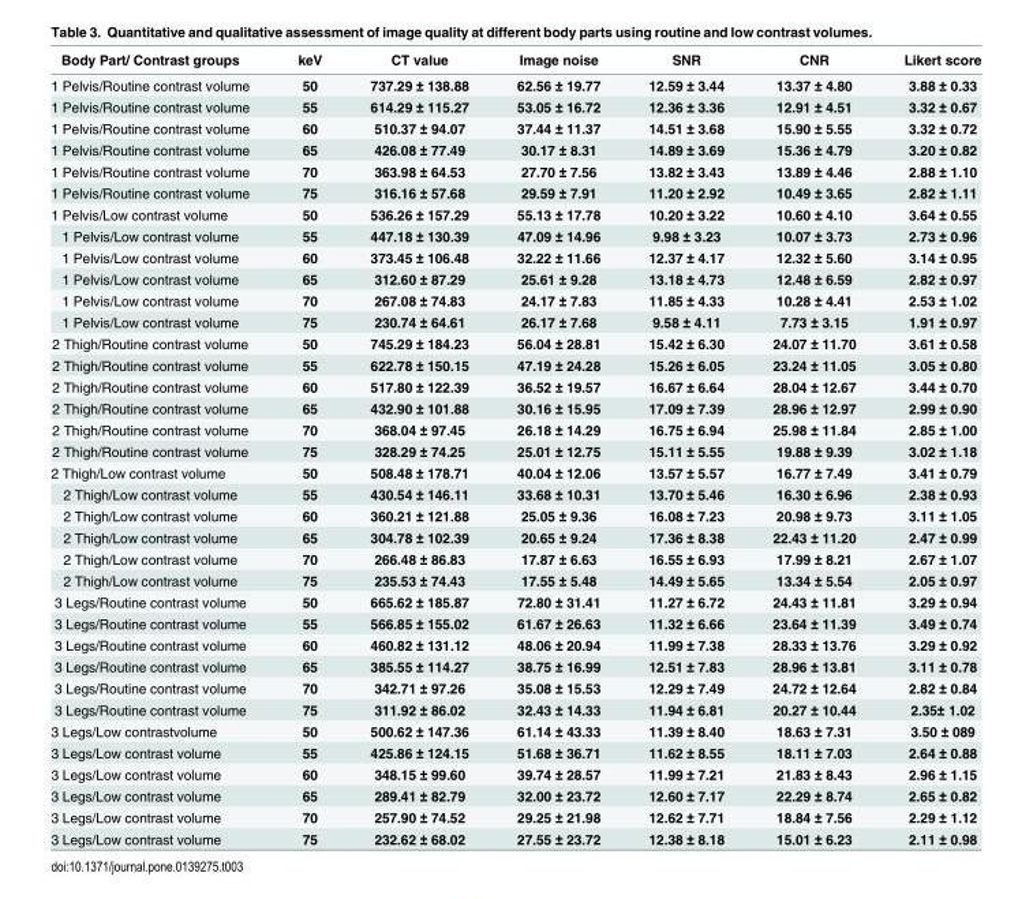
<table><thead><tr><td>Body Part/ Contrast groups</td><td>keV</td><td>CT value</td><td>Image noise</td><td>SNR</td><td>CNR</td><td>Likert score</td></tr></thead><tbody><tr><td>1 Pelvis/Routine contrast volume</td><td>50</td><td>737.29 ± 138.88</td><td>62.56 ± 19.77</td><td>12.59 ± 3.44</td><td>13.37 ± 4.80</td><td>3.88 ± 0.33</td></tr><tr><td>1 Pelvis/Routine contrast volume</td><td>55</td><td>614.29 ± 115.27</td><td>53.05 ± 16.72</td><td>12.36 ± 3.36</td><td>12.91 ± 4.51</td><td>3.32 ± 0.67</td></tr><tr><td>1 Pelvis/Routine contrast volume</td><td>60</td><td>510.37 ± 94.07</td><td>37.44 ± 11.37</td><td>14.51 ± 3.68</td><td>15.90 ± 5.55</td><td>3.32 ± 0.72</td></tr><tr><td>1 Pelvis/Routine contrast volume</td><td>65</td><td>426.08 ± 77.49</td><td>30.17 ± 8.31</td><td>14.89 ± 3.69</td><td>15.36 ± 4.79</td><td>3.20 ± 0.82</td></tr><tr><td>1 Pelvis/Routine contrast volume</td><td>70</td><td>363.98 ± 64.53</td><td>27.70 ± 7.56</td><td>13.82 ± 3.43</td><td>13.89 ± 4.46</td><td>2.88 ± 1.10</td></tr><tr><td>1 Pelvis/Routine contrast volume</td><td>75</td><td>316.16 ± 57.68</td><td>29.59 ± 7.91</td><td>11.20 ± 2.92</td><td>10.49 ± 3.65</td><td>2.82 ± 1.11</td></tr><tr><td>1 Pelvis/Low contrast volume</td><td>50</td><td>536.26 ± 157.29</td><td>55.13 ± 17.78</td><td>10.20 ± 3.22</td><td>10.60 ± 4.10</td><td>3.64 ± 0.55</td></tr><tr><td>1 Pelvis/Low contrast volume</td><td>55</td><td>447.18 ± 130.39</td><td>47.09 ± 14.96</td><td>9.98 ± 3.23</td><td>10.07 ± 3.73</td><td>2.73 ± 0.96</td></tr><tr><td>1 Pelvis/Low contrast volume</td><td>60</td><td>373.45 ± 106.48</td><td>32.22 ± 11.66</td><td>12.37 ± 4.17</td><td>12.32 ± 5.60</td><td>3.14 ± 0.95</td></tr><tr><td>1 Pelvis/Low contrast volume</td><td>65</td><td>312.60 ± 87.29</td><td>25.61 ± 9.28</td><td>13.18 ± 4.73</td><td>12.48 ± 6.59</td><td>2.82 ± 0.97</td></tr><tr><td>1 Pelvis/Low contrast volume</td><td>70</td><td>267.08 ± 74.83</td><td>24.17 ± 7.83</td><td>11.85 ± 4.33</td><td>10.28 ± 4.41</td><td>2.53 ± 1.02</td></tr><tr><td>1 Pelvis/Low contrast volume</td><td>75</td><td>230.74 ± 64.61</td><td>26.17 ± 7.68</td><td>9.58 ± 4.11</td><td>7.73 ± 3.15</td><td>1.91 ± 0.97</td></tr><tr><td>2 Thigh/Routine contrast volume</td><td>50</td><td>745.29 ± 184.23</td><td>56.04 ± 28.81</td><td>15.42 ± 6.30</td><td>24.07 ± 11.70</td><td>3.61 ± 0.58</td></tr><tr><td>2 Thigh/Routine contrast volume</td><td>55</td><td>622.78 ± 150.15</td><td>47.19 ± 24.28</td><td>15.26 ± 6.05</td><td>23.24 ± 11.05</td><td>3.05 ± 0.80</td></tr><tr><td>2 Thigh/Routine contrast volume</td><td>60</td><td>517.80 ± 122.39</td><td>36.52 ± 19.57</td><td>16.67 ± 6.64</td><td>28.04 ± 12.67</td><td>3.44 ± 0.70</td></tr><tr><td>2 Thigh/Routine contrast volume</td><td>65</td><td>432.90 ± 101.88</td><td>30.16 ± 15.95</td><td>17.09 ± 7.39</td><td>28.96 ± 12.97</td><td>2.99 ± 0.90</td></tr><tr><td>2 Thigh/Routine contrast volume</td><td>70</td><td>368.04 ± 97.45</td><td>26.18 ± 14.29</td><td>16.75 ± 6.94</td><td>25.98 ± 11.84</td><td>2.85 ± 1.00</td></tr><tr><td>2 Thigh/Routine contrast volume</td><td>75</td><td>328.29 ± 74.25</td><td>25.01 ± 12.75</td><td>15.11 ± 5.55</td><td>19.88 ± 9.39</td><td>3.02 ± 1.18</td></tr><tr><td>2 Thigh/Low contrast volume</td><td>50</td><td>508.48 ± 178.71</td><td>40.04 ± 12.06</td><td>13.57 ± 5.57</td><td>16.77 ± 7.49</td><td>3.41 ± 0.79</td></tr><tr><td>2 Thigh/Low contrast volume</td><td>55</td><td>430.54 ± 146.11</td><td>33.68 ± 10.31</td><td>13.70 ± 5.46</td><td>16.30 ± 6.96</td><td>2.38 ± 0.93</td></tr><tr><td>2 Thigh/Low contrast volume</td><td>60</td><td>360.21 ± 121.88</td><td>25.05 ± 9.36</td><td>16.08 ± 7.23</td><td>20.98 ± 9.73</td><td>3.11 ± 1.05</td></tr><tr><td>2 Thigh/Low contrast volume</td><td>65</td><td>304.78 ± 102.39</td><td>20.65 ± 9.24</td><td>17.36 ± 8.38</td><td>22.43 ± 11.20</td><td>2.47 ± 0.99</td></tr><tr><td>2 Thigh/Low contrast volume</td><td>70</td><td>266.48 ± 86.83</td><td>17.87 ± 6.63</td><td>16.55 ± 6.93</td><td>17.99 ± 8.21</td><td>2.67 ± 1.07</td></tr><tr><td>2 Thigh/Low contrast volume</td><td>75</td><td>235.53 ± 74.43</td><td>17.55 ± 5.48</td><td>14.49 ± 5.65</td><td>13.34 ± 5.54</td><td>2.05 ± 0.97</td></tr><tr><td>3 Legs/Routine contrast volume</td><td>50</td><td>665.62 ± 185.87</td><td>72.80 ± 31.41</td><td>11.27 ± 6.72</td><td>24.43 ± 11.81</td><td>3.29 ± 0.94</td></tr><tr><td>3 Legs/Routine contrast volume</td><td>55</td><td>566.85 ± 155.02</td><td>61.67 ± 26.63</td><td>11.32 ± 6.66</td><td>23.64 ± 11.39</td><td>3.49 ± 0.74</td></tr><tr><td>3 Legs/Routine contrast volume</td><td>60</td><td>460.82 ± 131.12</td><td>48.06 ± 20.94</td><td>11.99 ± 7.38</td><td>28.33 ± 13.76</td><td>3.29 ± 0.92</td></tr><tr><td>3 Legs/Routine contrast volume</td><td>65</td><td>385.55 ± 114.27</td><td>38.75 ± 16.99</td><td>12.51 ± 7.83</td><td>28.96 ± 13.81</td><td>3.11 ± 0.78</td></tr><tr><td>3 Legs/Routine contrast volume</td><td>70</td><td>342.71 ± 97.26</td><td>35.08 ± 15.53</td><td>12.29 ± 7.49</td><td>24.72 ± 12.64</td><td>2.82 ± 0.84</td></tr><tr><td>3 Legs/Routine contrast volume</td><td>75</td><td>311.92 ± 86.02</td><td>32.43 ± 14.33</td><td>11.94 ± 6.81</td><td>20.27 ± 10.44</td><td>2.35± 1.02</td></tr><tr><td>3 Legs/Low contrastvolume</td><td>50</td><td>500.62 ± 147.36</td><td>61.14 ± 43.33</td><td>11.39 ± 8.40</td><td>18.63 ± 7.31</td><td>3.50 ± 089</td></tr><tr><td>3 Legs/Low contrast volume</td><td>55</td><td>425.86 ± 124.15</td><td>51.68 ± 36.71</td><td>11.62 ± 8.55</td><td>18.11 ± 7.03</td><td>2.64 ± 0.88</td></tr><tr><td>3 Legs/Low contrast volume</td><td>60</td><td>348.15 ± 99.60</td><td>39.74 ± 28.57</td><td>11.99 ± 7.21</td><td>21.83 ± 8.43</td><td>2.96 ± 1.15</td></tr><tr><td>3 Legs/Low contrast volume</td><td>65</td><td>289.41 ± 82.79</td><td>32.00 ± 23.72</td><td>12.60 ± 7.17</td><td>22.29 ± 8.74</td><td>2.65 ± 0.82</td></tr><tr><td>3 Legs/Low contrast volume</td><td>70</td><td>257.90 ± 74.52</td><td>29.25 ± 21.98</td><td>12.62 ± 7.71</td><td>18.84 ± 7.56</td><td>2.29 ± 1.12</td></tr><tr><td>3 Legs/Low contrast volume</td><td>75</td><td>232.62 ± 68.02</td><td>27.55 ± 23.72</td><td>12.38 ± 8.18</td><td>15.01 ± 6.23</td><td>2.11 ± 0.98</td></tr></tbody></table>